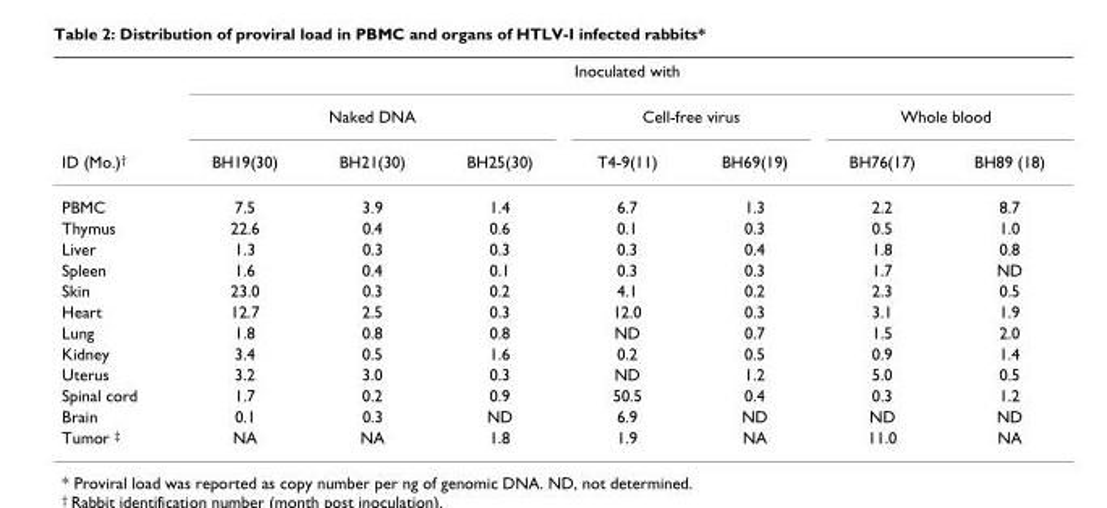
<table><thead><tr><td rowspan="3">ID (Mo.)<sup>†</sup></td><td colspan="7">Inoculated with</td></tr><tr><td colspan="3">Naked DNA</td><td colspan="2">Cell-free virus</td><td colspan="2">Whole blood</td></tr><tr><td>BH19(30)</td><td>BH21(30)</td><td>BH25(30)</td><td>T4-9(11)</td><td>BH69(19)</td><td>BH76(17)</td><td>BH89 (18)</td></tr></thead><tbody><tr><td>PBMC</td><td>7.5</td><td>3.9</td><td>1.4</td><td>6.7</td><td>1.3</td><td>2.2</td><td>8.7</td></tr><tr><td>Thymus</td><td>22.6</td><td>0.4</td><td>0.6</td><td>0.1</td><td>0.3</td><td>0.5</td><td>1.0</td></tr><tr><td>Liver</td><td>1.3</td><td>0.3</td><td>0.3</td><td>0.3</td><td>0.4</td><td>1.8</td><td>0.8</td></tr><tr><td>Spleen</td><td>1.6</td><td>0.4</td><td>0.1</td><td>0.3</td><td>0.3</td><td>1.7</td><td>ND</td></tr><tr><td>Skin</td><td>23.0</td><td>0.3</td><td>0.2</td><td>4.1</td><td>0.2</td><td>2.3</td><td>0.5</td></tr><tr><td>Heart</td><td>12.7</td><td>2.5</td><td>0.3</td><td>12.0</td><td>0.3</td><td>3.1</td><td>1.9</td></tr><tr><td>Lung</td><td>1.8</td><td>0.8</td><td>0.8</td><td>ND</td><td>0.7</td><td>1.5</td><td>2.0</td></tr><tr><td>Kidney</td><td>3.4</td><td>0.5</td><td>1.6</td><td>0.2</td><td>0.5</td><td>0.9</td><td>1.4</td></tr><tr><td>Uterus</td><td>3.2</td><td>3.0</td><td>0.3</td><td>ND</td><td>1.2</td><td>5.0</td><td>0.5</td></tr><tr><td>Spinal cord</td><td>1.7</td><td>0.2</td><td>0.9</td><td>50.5</td><td>0.4</td><td>0.3</td><td>1.2</td></tr><tr><td>Brain</td><td>0.1</td><td>0.3</td><td>ND</td><td>6.9</td><td>ND</td><td>ND</td><td>ND</td></tr><tr><td>Tumor <sup>‡</sup></td><td>NA</td><td>NA</td><td>1.8</td><td>1.9</td><td>NA</td><td>11.0</td><td>NA</td></tr></tbody></table>